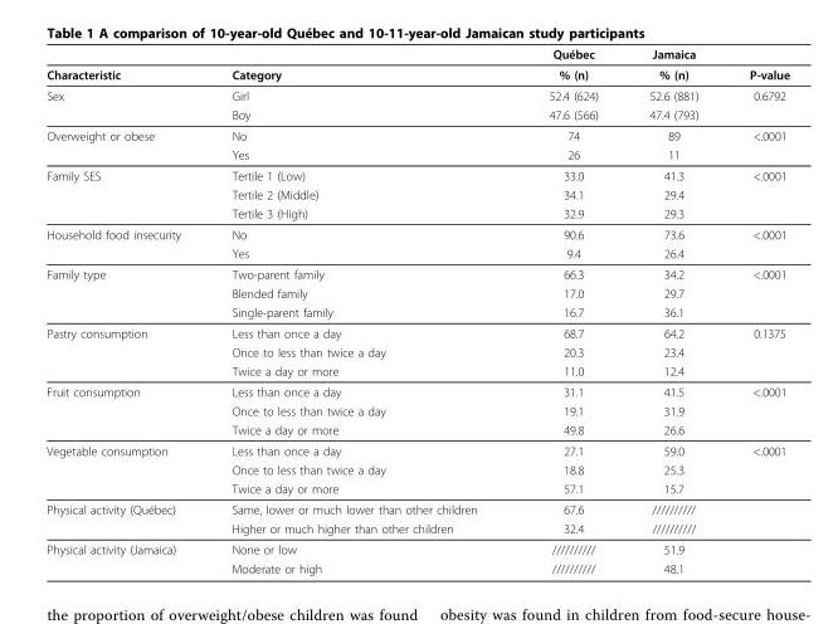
<table><thead><tr><td></td><td></td><td>Québec</td><td>Jamaica</td><td></td></tr></thead><tbody><tr><td>Characteristic</td><td>Category</td><td>% (n)</td><td>% (n)</td><td>P-value</td></tr><tr><td rowspan="2">Sex</td><td>Girl</td><td>52.4 (624)</td><td>52.6 (881)</td><td>0.6792</td></tr><tr><td>Boy</td><td>47.6 (566)</td><td>47.4 (793)</td><td></td></tr><tr><td rowspan="2">Overweight or obese</td><td>No</td><td>74</td><td>89</td><td>&lt;.0001</td></tr><tr><td>Yes</td><td>26</td><td>11</td><td></td></tr><tr><td rowspan="3">Family SES</td><td>Tertile 1 (Low)</td><td>33.0</td><td>41.3</td><td>&lt;.0001</td></tr><tr><td>Tertile 2 (Middle)</td><td>34.1</td><td>29.4</td><td></td></tr><tr><td>Tertile 3 (High)</td><td>32.9</td><td>29.3</td><td></td></tr><tr><td rowspan="2">Household food insecurity</td><td>No</td><td>90.6</td><td>73.6</td><td>&lt;.0001</td></tr><tr><td>Yes</td><td>9.4</td><td>26.4</td><td></td></tr><tr><td rowspan="3">Family type</td><td>Two-parent family</td><td>66.3</td><td>34.2</td><td>&lt;.0001</td></tr><tr><td>Blended family</td><td>17.0</td><td>29.7</td><td></td></tr><tr><td>Single-parent family</td><td>16.7</td><td>36.1</td><td></td></tr><tr><td rowspan="3">Pastry consumption</td><td>Less than once a day</td><td>68.7</td><td>64.2</td><td>0.1375</td></tr><tr><td>Once to less than twice a day</td><td>20.3</td><td>23.4</td><td></td></tr><tr><td>Twice a day or more</td><td>11.0</td><td>12.4</td><td></td></tr><tr><td rowspan="3">Fruit consumption</td><td>Less than once a day</td><td>31.1</td><td>41.5</td><td>&lt;.0001</td></tr><tr><td>Once to less than twice a day</td><td>19.1</td><td>31.9</td><td></td></tr><tr><td>Twice a day or more</td><td>49.8</td><td>26.6</td><td></td></tr><tr><td rowspan="3">Vegetable consumption</td><td>Less than once a day</td><td>27.1</td><td>59.0</td><td>&lt;.0001</td></tr><tr><td>Once to less than twice a day</td><td>18.8</td><td>25.3</td><td></td></tr><tr><td>Twice a day or more</td><td>57.1</td><td>15.7</td><td></td></tr><tr><td rowspan="2">Physical activity (Québec)</td><td>Same, lower or much lower than other children</td><td>67.6</td><td>//////////</td><td></td></tr><tr><td>Higher or much higher than other children</td><td>32.4</td><td>//////////</td><td></td></tr><tr><td rowspan="2">Physical activity (Jamaica)</td><td>None or low</td><td>//////////</td><td>51.9</td><td></td></tr><tr><td>Moderate or high</td><td>//////////</td><td>48.1</td><td></td></tr></tbody></table>